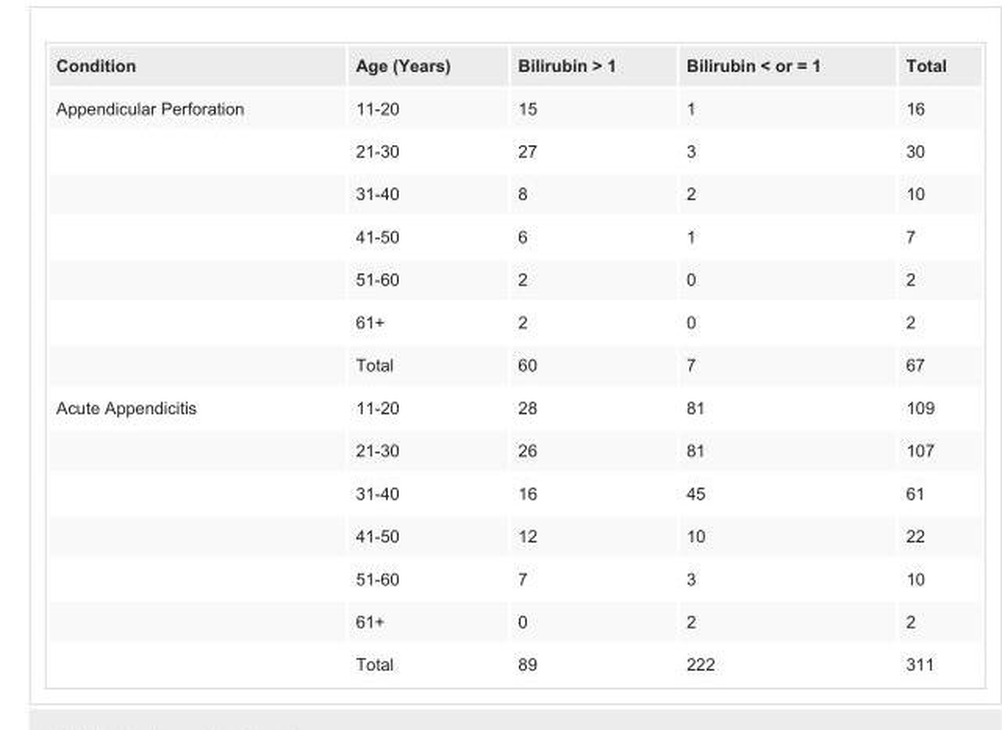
<table><tbody><tr><td>Condition</td><td>Age (Years)</td><td>Bilirubin &gt; 1</td><td>Bilirubin &lt; or = 1</td><td>Total</td></tr><tr><td rowspan="7">Appendicular Perforation</td><td>11-20</td><td>15</td><td>1</td><td>16</td></tr><tr><td>21-30</td><td>27</td><td>3</td><td>30</td></tr><tr><td>31-40</td><td>8</td><td>2</td><td>10</td></tr><tr><td>41-50</td><td>6</td><td>1</td><td>7</td></tr><tr><td>51-60</td><td>2</td><td>0</td><td>2</td></tr><tr><td>61+</td><td>2</td><td>0</td><td>2</td></tr><tr><td>Total</td><td>60</td><td>7</td><td>67</td></tr><tr><td rowspan="7">Acute Appendicitis</td><td>11-20</td><td>28</td><td>81</td><td>109</td></tr><tr><td>21-30</td><td>26</td><td>81</td><td>107</td></tr><tr><td>31-40</td><td>16</td><td>45</td><td>61</td></tr><tr><td>41-50</td><td>12</td><td>10</td><td>22</td></tr><tr><td>51-60</td><td>7</td><td>3</td><td>10</td></tr><tr><td>61+</td><td>0</td><td>2</td><td>2</td></tr><tr><td>Total</td><td>89</td><td>222</td><td>311</td></tr></tbody></table>